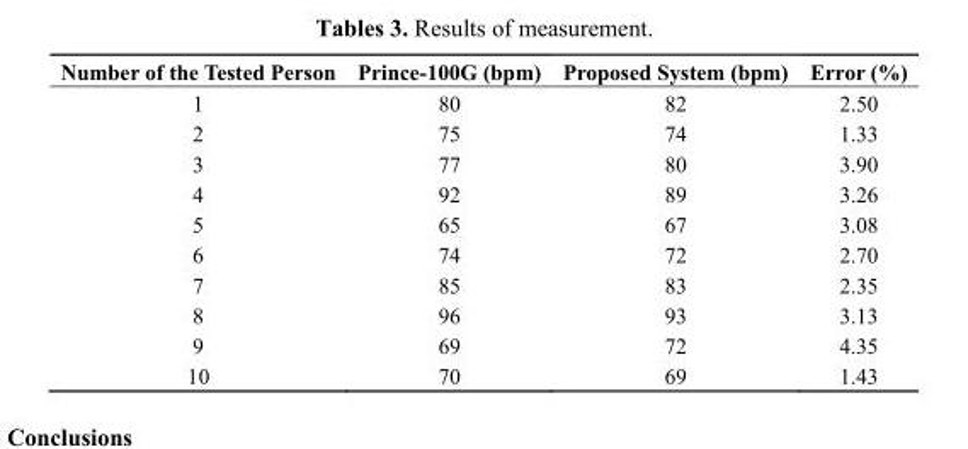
<table><thead><tr><td>Number of the Tested Person</td><td>Prince-100G (bpm)</td><td>Proposed System (bpm)</td><td>Error (%)</td></tr></thead><tbody><tr><td>1</td><td>80</td><td>82</td><td>2.50</td></tr><tr><td>2</td><td>75</td><td>74</td><td>1.33</td></tr><tr><td>3</td><td>77</td><td>80</td><td>3.90</td></tr><tr><td>4</td><td>92</td><td>89</td><td>3.26</td></tr><tr><td>5</td><td>65</td><td>67</td><td>3.08</td></tr><tr><td>6</td><td>74</td><td>72</td><td>2.70</td></tr><tr><td>7</td><td>85</td><td>83</td><td>2.35</td></tr><tr><td>8</td><td>96</td><td>93</td><td>3.13</td></tr><tr><td>9</td><td>69</td><td>72</td><td>4.35</td></tr><tr><td>10</td><td>70</td><td>69</td><td>1.43</td></tr></tbody></table>